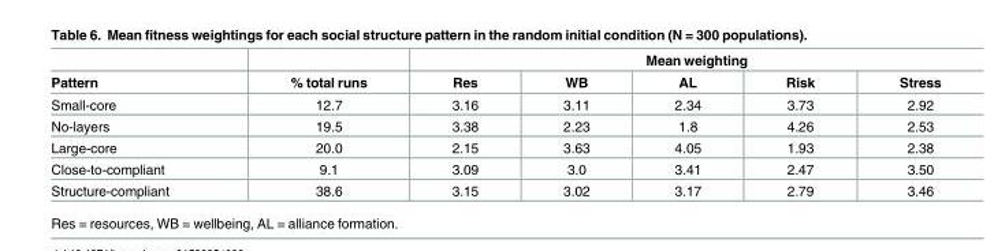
<table><thead><tr><td rowspan="2">Pattern</td><td rowspan="2">% total runs</td><td colspan="5">Mean weighting</td></tr><tr><td>Res</td><td>WB</td><td>AL</td><td>Risk</td><td>Stress</td></tr></thead><tbody><tr><td>Small-core</td><td>12.7</td><td>3.16</td><td>3.11</td><td>2.34</td><td>3.73</td><td>2.92</td></tr><tr><td>No-layers</td><td>19.5</td><td>3.38</td><td>2.23</td><td>1.8</td><td>4.26</td><td>2.53</td></tr><tr><td>Large-core</td><td>20.0</td><td>2.15</td><td>3.63</td><td>4.05</td><td>1.93</td><td>2.38</td></tr><tr><td>Close-to-compliant</td><td>9.1</td><td>3.09</td><td>3.0</td><td>3.41</td><td>2.47</td><td>3.50</td></tr><tr><td>Structure-compliant</td><td>38.6</td><td>3.15</td><td>3.02</td><td>3.17</td><td>2.79</td><td>3.46</td></tr></tbody></table>